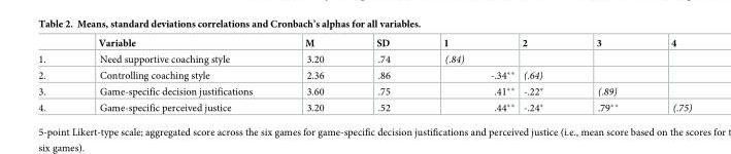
<table><thead><tr><td></td><td>Variable</td><td>M</td><td>SD</td><td>1</td><td>2</td><td>3</td><td>4</td></tr></thead><tbody><tr><td>1.</td><td>Need supportive coaching style</td><td>3.20</td><td>.74</td><td>(.84)</td><td></td><td></td><td></td></tr><tr><td>2.</td><td>Controlling coaching style</td><td>2.36</td><td>.86</td><td>-.34**</td><td>(.64)</td><td></td><td></td></tr><tr><td>3.</td><td>Game-specific decision justifications</td><td>3.60</td><td>.75</td><td>.41**</td><td>-.22*</td><td>(.89)</td><td></td></tr><tr><td>4.</td><td>Game-specific perceived justice</td><td>3.20</td><td>.52</td><td>.44**</td><td>-.24*</td><td>.79**</td><td>(.75)</td></tr></tbody></table>